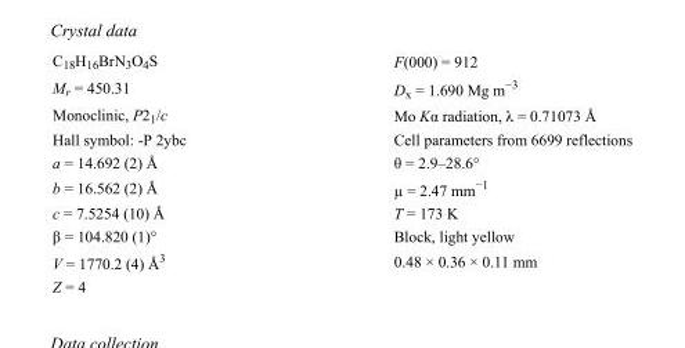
<table><tbody><tr><td>C<sub>18</sub>H<sub>16</sub>BrN<sub>3</sub>O<sub>4</sub>S</td><td>F(000) = 912</td></tr><tr><td>M<sub>r</sub> = 450.31</td><td>D<sub>x</sub> = 1.690 Mg m<sup>−3</sup></td></tr><tr><td>Monoclinic, P2<sub>1</sub>/c</td><td>Mo Kα radiation, λ = 0.71073 Å</td></tr><tr><td>Hall symbol: -P 2ybc</td><td>Cell parameters from 6699 reflections</td></tr><tr><td>a = 14.692 (2) Å</td><td>θ = 2.9–28.6°</td></tr><tr><td>b = 16.562 (2) Å</td><td>µ = 2.47 mm<sup>−1</sup></td></tr><tr><td>c = 7.5254 (10) Å</td><td>T = 173 K</td></tr><tr><td>β = 104.820 (1)°</td><td>Block, light yellow</td></tr><tr><td>V = 1770.2 (4) Å<sup>3</sup></td><td>0.48 × 0.36 × 0.11 mm</td></tr><tr><td>Z = 4</td><td></td></tr></tbody></table>